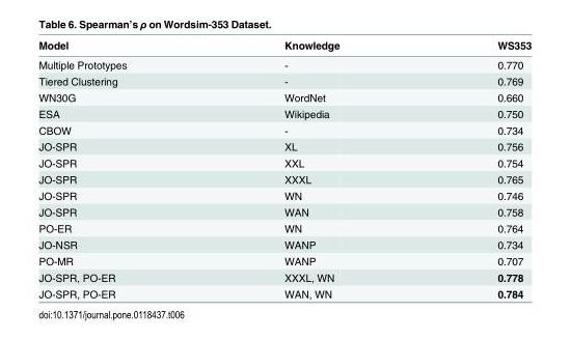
<table><thead><tr><td>Model</td><td>Knowledge</td><td>WS353</td></tr></thead><tbody><tr><td>Multiple Prototypes</td><td>-</td><td>0.770</td></tr><tr><td>Tiered Clustering</td><td>-</td><td>0.769</td></tr><tr><td>WN30G</td><td>WordNet</td><td>0.660</td></tr><tr><td>ESA</td><td>Wikipedia</td><td>0.750</td></tr><tr><td>CBOW</td><td>-</td><td>0.734</td></tr><tr><td>JO-SPR</td><td>XL</td><td>0.756</td></tr><tr><td>JO-SPR</td><td>XXL</td><td>0.754</td></tr><tr><td>JO-SPR</td><td>XXXL</td><td>0.765</td></tr><tr><td>JO-SPR</td><td>WN</td><td>0.746</td></tr><tr><td>JO-SPR</td><td>WAN</td><td>0.758</td></tr><tr><td>PO-ER</td><td>WN</td><td>0.764</td></tr><tr><td>JO-NSR</td><td>WANP</td><td>0.734</td></tr><tr><td>PO-MR</td><td>WANP</td><td>0.707</td></tr><tr><td>JO-SPR, PO-ER</td><td>XXXL, WN</td><td>0.778</td></tr><tr><td>JO-SPR, PO-ER</td><td>WAN, WN</td><td>0.784</td></tr></tbody></table>